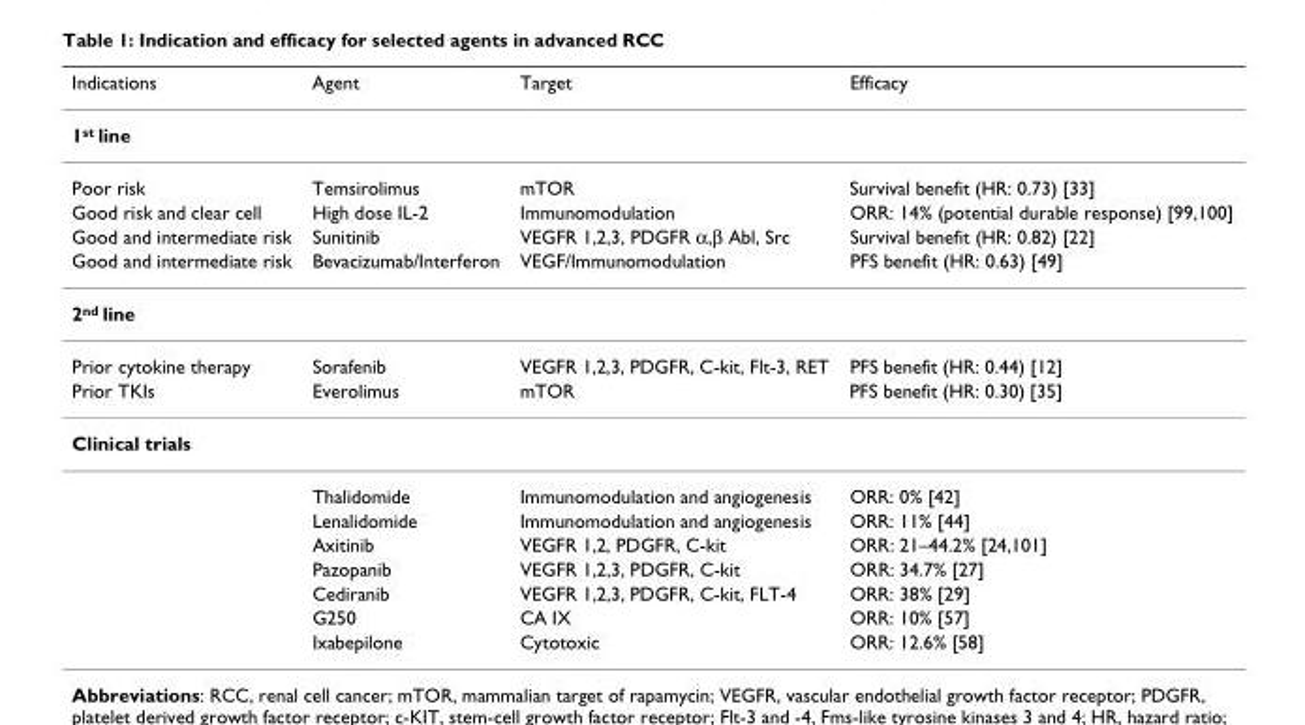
<table><thead><tr><td>Indications</td><td>Agent</td><td>Target</td><td>Efficacy</td></tr></thead><tbody><tr><td colspan="4">1<sup>st</sup> line</td></tr><tr><td>Poor risk</td><td>Temsirolimus</td><td>mTOR</td><td>Survival benefit (HR: 0.73) [33]</td></tr><tr><td>Good risk and clear cell</td><td>High dose IL-2</td><td>Immunomodulation</td><td>ORR: 14% (potential durable response) [99,100]</td></tr><tr><td>Good and intermediate risk</td><td>Sunitinib</td><td>VEGFR 1,2,3, PDGFR α,β Abl, Src</td><td>Survival benefit (HR: 0.82) [22]</td></tr><tr><td>Good and intermediate risk</td><td>Bevacizumab/Interferon</td><td>VEGF/Immunomodulation</td><td>PFS benefit (HR: 0.63) [49]</td></tr><tr><td colspan="4">2<sup>nd</sup> line</td></tr><tr><td>Prior cytokine therapy</td><td>Sorafenib</td><td>VEGFR 1,2,3, PDGFR, C-kit, Flt-3, RET</td><td>PFS benefit (HR: 0.44) [12]</td></tr><tr><td>Prior TKIs</td><td>Everolimus</td><td>mTOR</td><td>PFS benefit (HR: 0.30) [35]</td></tr><tr><td colspan="4">Clinical trials</td></tr><tr><td></td><td>Thalidomide</td><td>Immunomodulation and angiogenesis</td><td>ORR: 0% [42]</td></tr><tr><td></td><td>Lenalidomide</td><td>Immunomodulation and angiogenesis</td><td>ORR: 11% [44]</td></tr><tr><td></td><td>Axitinib</td><td>VEGFR 1,2, PDGFR, C-kit</td><td>ORR: 21–44.2% [24,101]</td></tr><tr><td></td><td>Pazopanib</td><td>VEGFR 1,2,3, PDGFR, C-kit</td><td>ORR: 34.7% [27]</td></tr><tr><td></td><td>Cediranib</td><td>VEGFR 1,2,3, PDGFR, C-kit, FLT-4</td><td>ORR: 38% [29]</td></tr><tr><td></td><td>G250</td><td>CA IX</td><td>ORR: 10% [57]</td></tr><tr><td></td><td>Ixabepilone</td><td>Cytotoxic</td><td>ORR: 12.6% [58]</td></tr></tbody></table>